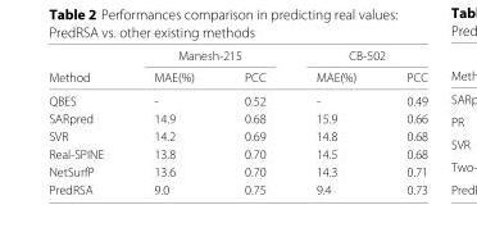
<table><thead><tr><td rowspan="2">Method</td><td colspan="2">Manesh-215</td><td colspan="2">CB-502</td></tr><tr><td>MAE(%)</td><td>PCC</td><td>MAE(%)</td><td>PCC</td></tr></thead><tbody><tr><td>QBES</td><td>-</td><td>0.52</td><td>-</td><td>0.49</td></tr><tr><td>SARpred</td><td>14.9</td><td>0.68</td><td>15.9</td><td>0.66</td></tr><tr><td>SVR</td><td>14.2</td><td>0.69</td><td>14.8</td><td>0.68</td></tr><tr><td>Real-SPINE</td><td>13.8</td><td>0.70</td><td>14.5</td><td>0.68</td></tr><tr><td>NetSurfP</td><td>13.6</td><td>0.70</td><td>14.3</td><td>0.71</td></tr><tr><td>PredRSA</td><td>9.0</td><td>0.75</td><td>9.4</td><td>0.73</td></tr></tbody></table>